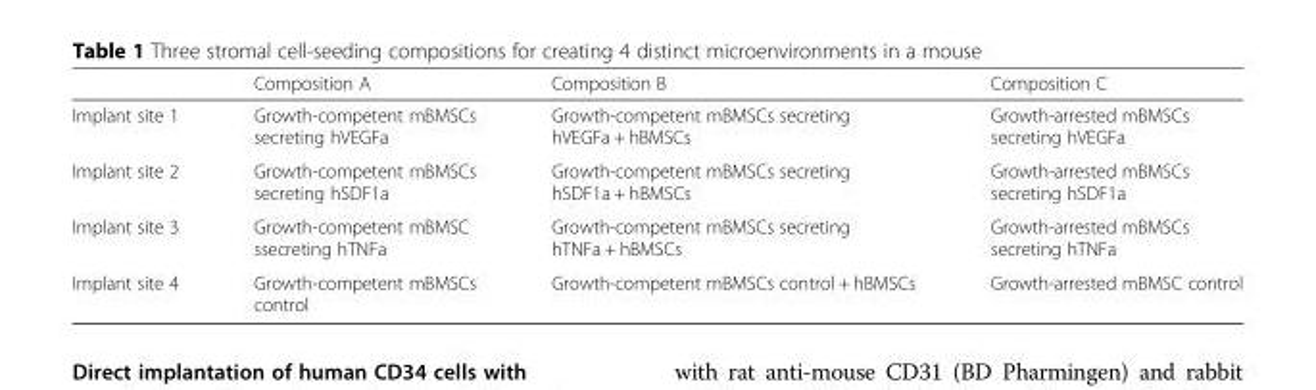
<table><thead><tr><td></td><td>Composition A</td><td>Composition B</td><td>Composition C</td></tr></thead><tbody><tr><td>Implant site 1</td><td>Growth-competent mBMSCs secreting hVEGFa</td><td>Growth-competent mBMSCs secreting hVEGFa + hBMSCs</td><td>Growth-arrested mBMSCs secreting hVEGFa</td></tr><tr><td>Implant site 2</td><td>Growth-competent mBMSCs secreting hSDF1a</td><td>Growth-competent mBMSCs secreting hSDF1a + hBMSCs</td><td>Growth-arrested mBMSCs secreting hSDF1a</td></tr><tr><td>Implant site 3</td><td>Growth-competent mBMSC ssecreting hTNFa</td><td>Growth-competent mBMSCs secreting hTNFa + hBMSCs</td><td>Growth-arrested mBMSCs secreting hTNFa</td></tr><tr><td>Implant site 4</td><td>Growth-competent mBMSCs control</td><td>Growth-competent mBMSCs control + hBMSCs</td><td>Growth-arrested mBMSC control</td></tr></tbody></table>